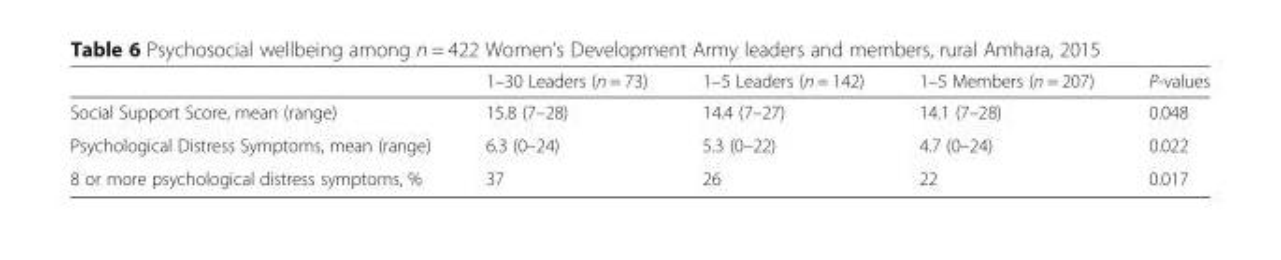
<table><thead><tr><td></td><td>1–30 Leaders (n = 73)</td><td>1–5 Leaders (n = 142)</td><td>1–5 Members (n = 207)</td><td>P-values</td></tr></thead><tbody><tr><td>Social Support Score, mean (range)</td><td>15.8 (7–28)</td><td>14.4 (7–27)</td><td>14.1 (7–28)</td><td>0.048</td></tr><tr><td>Psychological Distress Symptoms, mean (range)</td><td>6.3 (0–24)</td><td>5.3 (0–22)</td><td>4.7 (0–24)</td><td>0.022</td></tr><tr><td>8 or more psychological distress symptoms, %</td><td>37</td><td>26</td><td>22</td><td>0.017</td></tr></tbody></table>